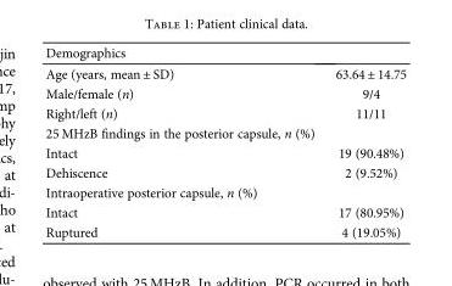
<table><thead><tr><td>Demographics</td><td></td></tr></thead><tbody><tr><td>Age (years, mean ± SD)</td><td>63.64 ± 14.75</td></tr><tr><td>Male/female (n)</td><td>9/4</td></tr><tr><td>Right/left (n)</td><td>11/11</td></tr><tr><td colspan="2">25 MHzB findings in the posterior capsule, n (%)</td></tr><tr><td>Intact</td><td>19 (90.48%)</td></tr><tr><td>Dehiscence</td><td>2 (9.52%)</td></tr><tr><td colspan="2">Intraoperative posterior capsule, n (%)</td></tr><tr><td>Intact</td><td>17 (80.95%)</td></tr><tr><td>Ruptured</td><td>4 (19.05%)</td></tr></tbody></table>